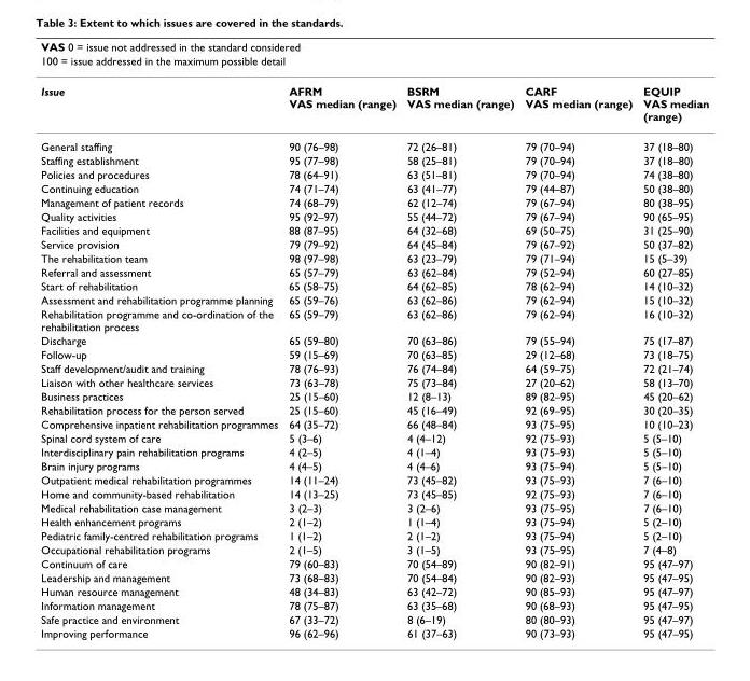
<table><thead><tr><td rowspan="2" colspan="5">VAS 0 = issue not addressed in the standard considered 100 = issue addressed in the maximum possible detail</td></tr><tr></tr><tr><td>Issue</td><td>AFRM VAS median (range)</td><td>BSRM VAS median (range)</td><td>CARF VAS median (range)</td><td>EQUIP VAS median (range)</td></tr></thead><tbody><tr><td>General staffing</td><td>90 (76–98)</td><td>72 (26–81)</td><td>79 (70–94)</td><td>37 (18–80)</td></tr><tr><td>Staffing establishment</td><td>95 (77–98)</td><td>58 (25–81)</td><td>79 (70–94)</td><td>37 (18–80)</td></tr><tr><td>Policies and procedures</td><td>78 (64–91)</td><td>63 (51–81)</td><td>79 (70–94)</td><td>74 (38–80)</td></tr><tr><td>Continuing education</td><td>74 (71–74)</td><td>63 (41–77)</td><td>79 (44–87)</td><td>50 (38–80)</td></tr><tr><td>Management of patient records</td><td>74 (68–79)</td><td>62 (12–74)</td><td>79 (67–94)</td><td>80 (38–95)</td></tr><tr><td>Quality activities</td><td>95 (92–97)</td><td>55 (44–72)</td><td>79 (67–94)</td><td>90 (65–95)</td></tr><tr><td>Facilities and equipment</td><td>88 (87–95)</td><td>64 (32–68)</td><td>69 (50–75)</td><td>31 (25–90)</td></tr><tr><td>Service provision</td><td>79 (79–92)</td><td>64 (45–84)</td><td>79 (67–92)</td><td>50 (37–82)</td></tr><tr><td>The rehabilitation team</td><td>98 (97–98)</td><td>63 (23–79)</td><td>79 (71–94)</td><td>15 (5–39)</td></tr><tr><td>Referral and assessment</td><td>65 (57–79)</td><td>63 (62–84)</td><td>79 (52–94)</td><td>60 (27–85)</td></tr><tr><td>Start of rehabilitation</td><td>65 (58–75)</td><td>64 (62–85)</td><td>78 (62–94)</td><td>14 (10–32)</td></tr><tr><td>Assessment and rehabilitation programme planning</td><td>65 (59–76)</td><td>63 (62–86)</td><td>79 (62–94)</td><td>15 (10–32)</td></tr><tr><td>Rehabilitation programme and co-ordination of the rehabilitation process</td><td>65 (59–79)</td><td>63 (62–86)</td><td>79 (62–94)</td><td>16 (10–32)</td></tr><tr><td>Discharge</td><td>65 (59–80)</td><td>70 (63–86)</td><td>79 (55–94)</td><td>75 (17–87)</td></tr><tr><td>Follow-up</td><td>59 (15–69)</td><td>70 (63–85)</td><td>29 (12–68)</td><td>73 (18–75)</td></tr><tr><td>Staff development/audit and training</td><td>78 (76–93)</td><td>76 (74–84)</td><td>64 (59–75)</td><td>72 (21–74)</td></tr><tr><td>Liaison with other healthcare services</td><td>73 (63–78)</td><td>75 (73–84)</td><td>27 (20–62)</td><td>58 (13–70)</td></tr><tr><td>Business practices</td><td>25 (15–60)</td><td>12 (8–13)</td><td>89 (82–95)</td><td>45 (20–62)</td></tr><tr><td>Rehabilitation process for the person served</td><td>25 (15–60)</td><td>45 (16–49)</td><td>92 (69–95)</td><td>30 (20–35)</td></tr><tr><td>Comprehensive inpatient rehabilitation programmes</td><td>64 (35–72)</td><td>66 (48–84)</td><td>93 (75–95)</td><td>10 (10–23)</td></tr><tr><td>Spinal cord system of care</td><td>5 (3–6)</td><td>4 (4–12)</td><td>92 (75–93)</td><td>5 (5–10)</td></tr><tr><td>Interdisciplinary pain rehabilitation programs</td><td>4 (2–5)</td><td>4 (1–4)</td><td>93 (75–93)</td><td>5 (5–10)</td></tr><tr><td>Brain injury programs</td><td>4 (4–5)</td><td>4 (4–6)</td><td>93 (75–94)</td><td>5 (5–10)</td></tr><tr><td>Outpatient medical rehabilitation programmes</td><td>14 (11–24)</td><td>73 (45–82)</td><td>93 (75–93)</td><td>7 (6–10)</td></tr><tr><td>Home and community-based rehabilitation</td><td>14 (13–25)</td><td>73 (45–85)</td><td>92 (75–93)</td><td>7 (6–10)</td></tr><tr><td>Medical rehabilitation case management</td><td>3 (2–3)</td><td>3 (2–6)</td><td>93 (75–95)</td><td>7 (6–10)</td></tr><tr><td>Health enhancement programs</td><td>2 (1–2)</td><td>1 (1–4)</td><td>93 (75–94)</td><td>5 (2–10)</td></tr><tr><td>Pediatric family-centred rehabilitation programs</td><td>1 (1–2)</td><td>2 (1–2)</td><td>93 (75–94)</td><td>5 (2–10)</td></tr><tr><td>Occupational rehabilitation programs</td><td>2 (1–5)</td><td>3 (1–5)</td><td>93 (75–95)</td><td>7 (4–8)</td></tr><tr><td>Continuum of care</td><td>79 (60–83)</td><td>70 (54–89)</td><td>90 (82–91)</td><td>95 (47–97)</td></tr><tr><td>Leadership and management</td><td>73 (68–83)</td><td>70 (54–84)</td><td>90 (82–93)</td><td>95 (47–95)</td></tr><tr><td>Human resource management</td><td>48 (34–83)</td><td>63 (42–72)</td><td>90 (85–93)</td><td>95 (47–97)</td></tr><tr><td>Information management</td><td>78 (75–87)</td><td>63 (35–68)</td><td>90 (68–93)</td><td>95 (47–95)</td></tr><tr><td>Safe practice and environment</td><td>67 (33–72)</td><td>8 (6–19)</td><td>80 (80–93)</td><td>95 (47–97)</td></tr><tr><td>Improving performance</td><td>96 (62–96)</td><td>61 (37–63)</td><td>90 (73–93)</td><td>95 (47–95)</td></tr></tbody></table>